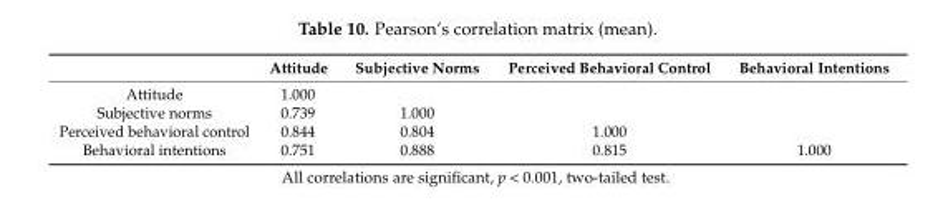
<table><thead><tr><td></td><td>Attitude</td><td>Subjective Norms</td><td>Perceived Behavioral Control</td><td>Behavioral Intentions</td></tr></thead><tbody><tr><td>Attitude</td><td>1.000</td><td></td><td></td><td></td></tr><tr><td>Subjective norms</td><td>0.739</td><td>1.000</td><td></td><td></td></tr><tr><td>Perceived behavioral control</td><td>0.844</td><td>0.804</td><td>1.000</td><td></td></tr><tr><td>Behavioral intentions</td><td>0.751</td><td>0.888</td><td>0.815</td><td>1.000</td></tr></tbody></table>